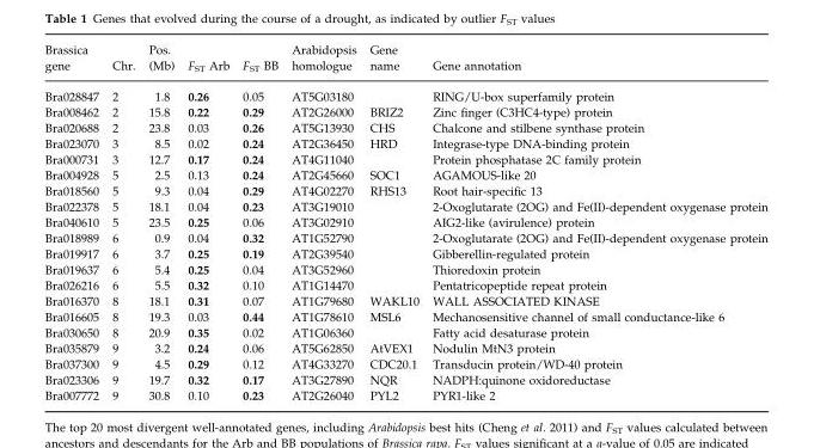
<table><thead><tr><td>Brassica gene</td><td>Chr.</td><td>Pos. (Mb)</td><td>F<sub>ST</sub> Arb</td><td>F<sub>ST</sub> BB</td><td>Arabidopsis homologue</td><td>Gene name</td><td>Gene annotation</td></tr></thead><tbody><tr><td>Bra028847</td><td>2</td><td>1.8</td><td>0.26</td><td>0.05</td><td>AT5G03180</td><td></td><td>RING/U-box superfamily protein</td></tr><tr><td>Bra008462</td><td>2</td><td>15.8</td><td>0.22</td><td>0.29</td><td>AT2G26000</td><td>BRIZ2</td><td>Zinc finger (C3HC4-type) protein</td></tr><tr><td>Bra020688</td><td>2</td><td>23.8</td><td>0.03</td><td>0.26</td><td>AT5G13930</td><td>CHS</td><td>Chalcone and stilbene synthase protein</td></tr><tr><td>Bra023070</td><td>3</td><td>8.5</td><td>0.02</td><td>0.24</td><td>AT2G36450</td><td>HRD</td><td>Integrase-type DNA-binding protein</td></tr><tr><td>Bra000731</td><td>3</td><td>12.7</td><td>0.17</td><td>0.24</td><td>AT4G11040</td><td></td><td>Protein phosphatase 2C family protein</td></tr><tr><td>Bra004928</td><td>5</td><td>2.5</td><td>0.13</td><td>0.24</td><td>AT2G45660</td><td>SOC1</td><td>AGAMOUS-like 20</td></tr><tr><td>Bra018560</td><td>5</td><td>9.3</td><td>0.04</td><td>0.29</td><td>AT4G02270</td><td>RHS13</td><td>Root hair-specific 13</td></tr><tr><td>Bra022378</td><td>5</td><td>18.1</td><td>0.04</td><td>0.23</td><td>AT3G19010</td><td></td><td>2-Oxoglutarate (2OG) and Fe(II)-dependent oxygenase protein</td></tr><tr><td>Bra040610</td><td>5</td><td>23.5</td><td>0.25</td><td>0.06</td><td>AT3G02910</td><td></td><td>AIG2-like (avirulence) protein</td></tr><tr><td>Bra018989</td><td>6</td><td>0.9</td><td>0.04</td><td>0.32</td><td>AT1G52790</td><td></td><td>2-Oxoglutarate (2OG) and Fe(II)-dependent oxygenase protein</td></tr><tr><td>Bra019917</td><td>6</td><td>3.7</td><td>0.25</td><td>0.19</td><td>AT2G39540</td><td></td><td>Gibberellin-regulated protein</td></tr><tr><td>Bra019637</td><td>6</td><td>5.4</td><td>0.25</td><td>0.04</td><td>AT3G52960</td><td></td><td>Thioredoxin protein</td></tr><tr><td>Bra026216</td><td>6</td><td>5.5</td><td>0.32</td><td>0.10</td><td>AT1G14470</td><td></td><td>Pentatricopeptide repeat protein</td></tr><tr><td>Bra016370</td><td>8</td><td>18.1</td><td>0.31</td><td>0.07</td><td>AT1G79680</td><td>WAKL10</td><td>WALL ASSOCIATED KINASE</td></tr><tr><td>Bra016605</td><td>8</td><td>19.3</td><td>0.03</td><td>0.44</td><td>AT1G78610</td><td>MSL6</td><td>Mechanosensitive channel of small conductance-like 6</td></tr><tr><td>Bra030650</td><td>8</td><td>20.9</td><td>0.35</td><td>0.02</td><td>AT1G06360</td><td></td><td>Fatty acid desaturase protein</td></tr><tr><td>Bra035879</td><td>9</td><td>3.2</td><td>0.24</td><td>0.06</td><td>AT5G62850</td><td>AtVEX1</td><td>Nodulin MtN3 protein</td></tr><tr><td>Bra037300</td><td>9</td><td>4.5</td><td>0.29</td><td>0.12</td><td>AT4G33270</td><td>CDC20.1</td><td>Transducin protein/WD-40 protein</td></tr><tr><td>Bra023306</td><td>9</td><td>19.7</td><td>0.32</td><td>0.17</td><td>AT3G27890</td><td>NQR</td><td>NADPH:quinone oxidoreductase</td></tr><tr><td>Bra007772</td><td>9</td><td>30.8</td><td>0.10</td><td>0.23</td><td>AT2G26040</td><td>PYL2</td><td>PYR1-like 2</td></tr></tbody></table>